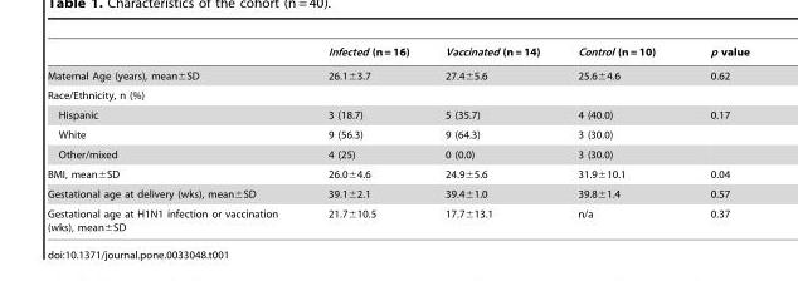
<table><thead><tr><td></td><td>Infected (n = 16)</td><td>Vaccinated (n = 14)</td><td>Control (n = 10)</td><td>p value</td></tr></thead><tbody><tr><td>Maternal Age (years), mean±SD</td><td>26.1±3.7</td><td>27.4±5.6</td><td>25.6±4.6</td><td>0.62</td></tr><tr><td colspan="5">Race/Ethnicity, n (%)</td></tr><tr><td>Hispanic</td><td>3 (18.7)</td><td>5 (35.7)</td><td>4 (40.0)</td><td>0.17</td></tr><tr><td>White</td><td>9 (56.3)</td><td>9 (64.3)</td><td>3 (30.0)</td><td></td></tr><tr><td>Other/mixed</td><td>4 (25)</td><td>0 (0.0)</td><td>3 (30.0)</td><td></td></tr><tr><td>BMI, mean±SD</td><td>26.0±4.6</td><td>24.9±5.6</td><td>31.9±10.1</td><td>0.04</td></tr><tr><td>Gestational age at delivery (wks), mean±SD</td><td>39.1±2.1</td><td>39.4±1.0</td><td>39.8±1.4</td><td>0.57</td></tr><tr><td>Gestational age at H1N1 infection or vaccination (wks), mean±SD</td><td>21.7±10.5</td><td>17.7±13.1</td><td>n/a</td><td>0.37</td></tr></tbody></table>